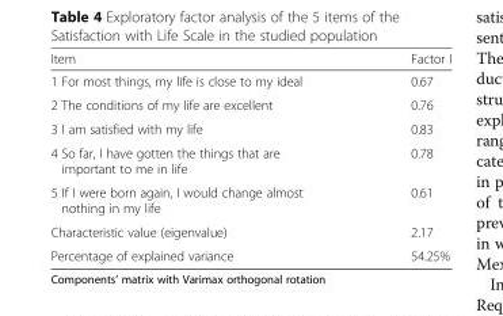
<table><thead><tr><td>Item</td><td>Factor I</td></tr></thead><tbody><tr><td>1 For most things, my life is close to my ideal</td><td>0.67</td></tr><tr><td>2 The conditions of my life are excellent</td><td>0.76</td></tr><tr><td>3 I am satisfied with my life</td><td>0.83</td></tr><tr><td>4 So far, I have gotten the things that are important to me in life</td><td>0.78</td></tr><tr><td>5 If I were born again, I would change almost nothing in my life</td><td>0.61</td></tr><tr><td>Characteristic value (eigenvalue)</td><td>2.17</td></tr><tr><td>Percentage of explained variance</td><td>54.25%</td></tr></tbody></table>